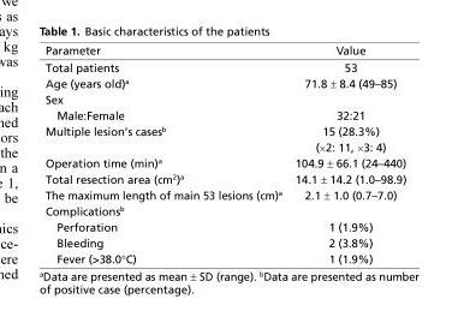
<table><thead><tr><td>Parameter</td><td>Value</td></tr></thead><tbody><tr><td>Total patients</td><td>53</td></tr><tr><td>Age (years old)<sup>a</sup></td><td>71.8 ± 8.4 (49–85)</td></tr><tr><td colspan="2">Sex</td></tr><tr><td>Male:Female</td><td>32:21</td></tr><tr><td rowspan="2">Multiple lesion’s cases<sup>b</sup></td><td>15 (28.3%)</td></tr><tr><td>(×2: 11, ×3: 4)</td></tr><tr><td>Operation time (min)<sup>a</sup></td><td>104.9 ± 66.1 (24–440)</td></tr><tr><td>Total resection area (cm<sup>2</sup>)<sup>a</sup></td><td>14.1 ± 14.2 (1.0–98.9)</td></tr><tr><td>The maximum length of main 53 lesions (cm)<sup>a</sup></td><td>2.1 ± 1.0 (0.7–7.0)</td></tr><tr><td colspan="2">Complications<sup>b</sup></td></tr><tr><td>Perforation</td><td>1 (1.9%)</td></tr><tr><td>Bleeding</td><td>2 (3.8%)</td></tr><tr><td>Fever (&gt;38.0°C)</td><td>1 (1.9%)</td></tr></tbody></table>